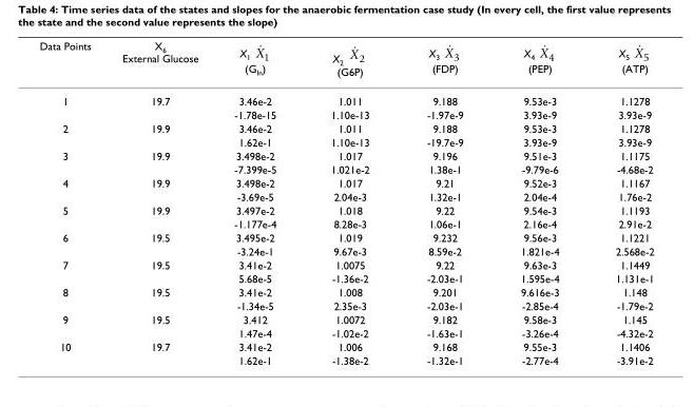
<table><thead><tr><td>Data Points</td><td>X<sub>6</sub> External Glucose</td><td>X1 (GIn) �X1</td><td>X2 (G6P) �X2</td><td>X3 (FDP) �X3</td><td>X4 (PEP) �X4</td><td>X5 (ATP) �X5</td></tr></thead><tbody><tr><td rowspan="2">1</td><td>19.7</td><td>3.46e-2</td><td>1.011</td><td>9.188</td><td>9.53e-3</td><td>1.1278</td></tr><tr><td></td><td>-1.78e-15</td><td>1.10e-13</td><td>-1.97e-9</td><td>3.93e-9</td><td>3.93e-9</td></tr><tr><td rowspan="2">2</td><td>19.9</td><td>3.46e-2</td><td>1.011</td><td>9.188</td><td>9.53e-3</td><td>1.1278</td></tr><tr><td></td><td>1.62e-1</td><td>1.10e-13</td><td>-19.7e-9</td><td>3.93e-9</td><td>3.93e-9</td></tr><tr><td rowspan="2">3</td><td>19.9</td><td>3.498e-2</td><td>1.017</td><td>9.196</td><td>9.51e-3</td><td>1.1175</td></tr><tr><td></td><td>-7.399e-5</td><td>1.021e-2</td><td>1.38e-1</td><td>-9.79e-6</td><td>-4.68e-2</td></tr><tr><td rowspan="2">4</td><td>19.9</td><td>3.498e-2</td><td>1.017</td><td>9.21</td><td>9.52e-3</td><td>1.1167</td></tr><tr><td></td><td>-3.69e-5</td><td>2.04e-3</td><td>1.32e-1</td><td>2.04e-4</td><td>1.76e-2</td></tr><tr><td rowspan="2">5</td><td>19.9</td><td>3.497e-2</td><td>1.018</td><td>9.22</td><td>9.54e-3</td><td>1.1193</td></tr><tr><td></td><td>-1.177e-4</td><td>8.28e-3</td><td>1.06e-1</td><td>2.16e-4</td><td>2.91e-2</td></tr><tr><td rowspan="2">6</td><td>19.5</td><td>3.495e-2</td><td>1.019</td><td>9.232</td><td>9.56e-3</td><td>1.1221</td></tr><tr><td></td><td>-3.24e-1</td><td>9.67e-3</td><td>8.59e-2</td><td>1.821e-4</td><td>2.568e-2</td></tr><tr><td rowspan="2">7</td><td>19.5</td><td>3.41e-2</td><td>1.0075</td><td>9.22</td><td>9.63e-3</td><td>1.1449</td></tr><tr><td></td><td>5.68e-5</td><td>-1.36e-2</td><td>-2.03e-1</td><td>1.595e-4</td><td>1.131e-1</td></tr><tr><td rowspan="2">8</td><td>19.5</td><td>3.41e-2</td><td>1.008</td><td>9.201</td><td>9.616e-3</td><td>1.148</td></tr><tr><td></td><td>-1.34e-5</td><td>2.35e-3</td><td>-2.03e-1</td><td>-2.85e-4</td><td>-1.79e-2</td></tr><tr><td rowspan="2">9</td><td>19.5</td><td>3.412</td><td>1.0072</td><td>9.182</td><td>9.58e-3</td><td>1.145</td></tr><tr><td></td><td>1.47e-4</td><td>-1.02e-2</td><td>-1.63e-1</td><td>-3.26e-4</td><td>-4.32e-2</td></tr><tr><td rowspan="2">10</td><td>19.7</td><td>3.41e-2</td><td>1.006</td><td>9.168</td><td>9.55e-3</td><td>1.1406</td></tr><tr><td></td><td>1.62e-1</td><td>-1.38e-2</td><td>-1.32e-1</td><td>-2.77e-4</td><td>-3.91e-2</td></tr></tbody></table>